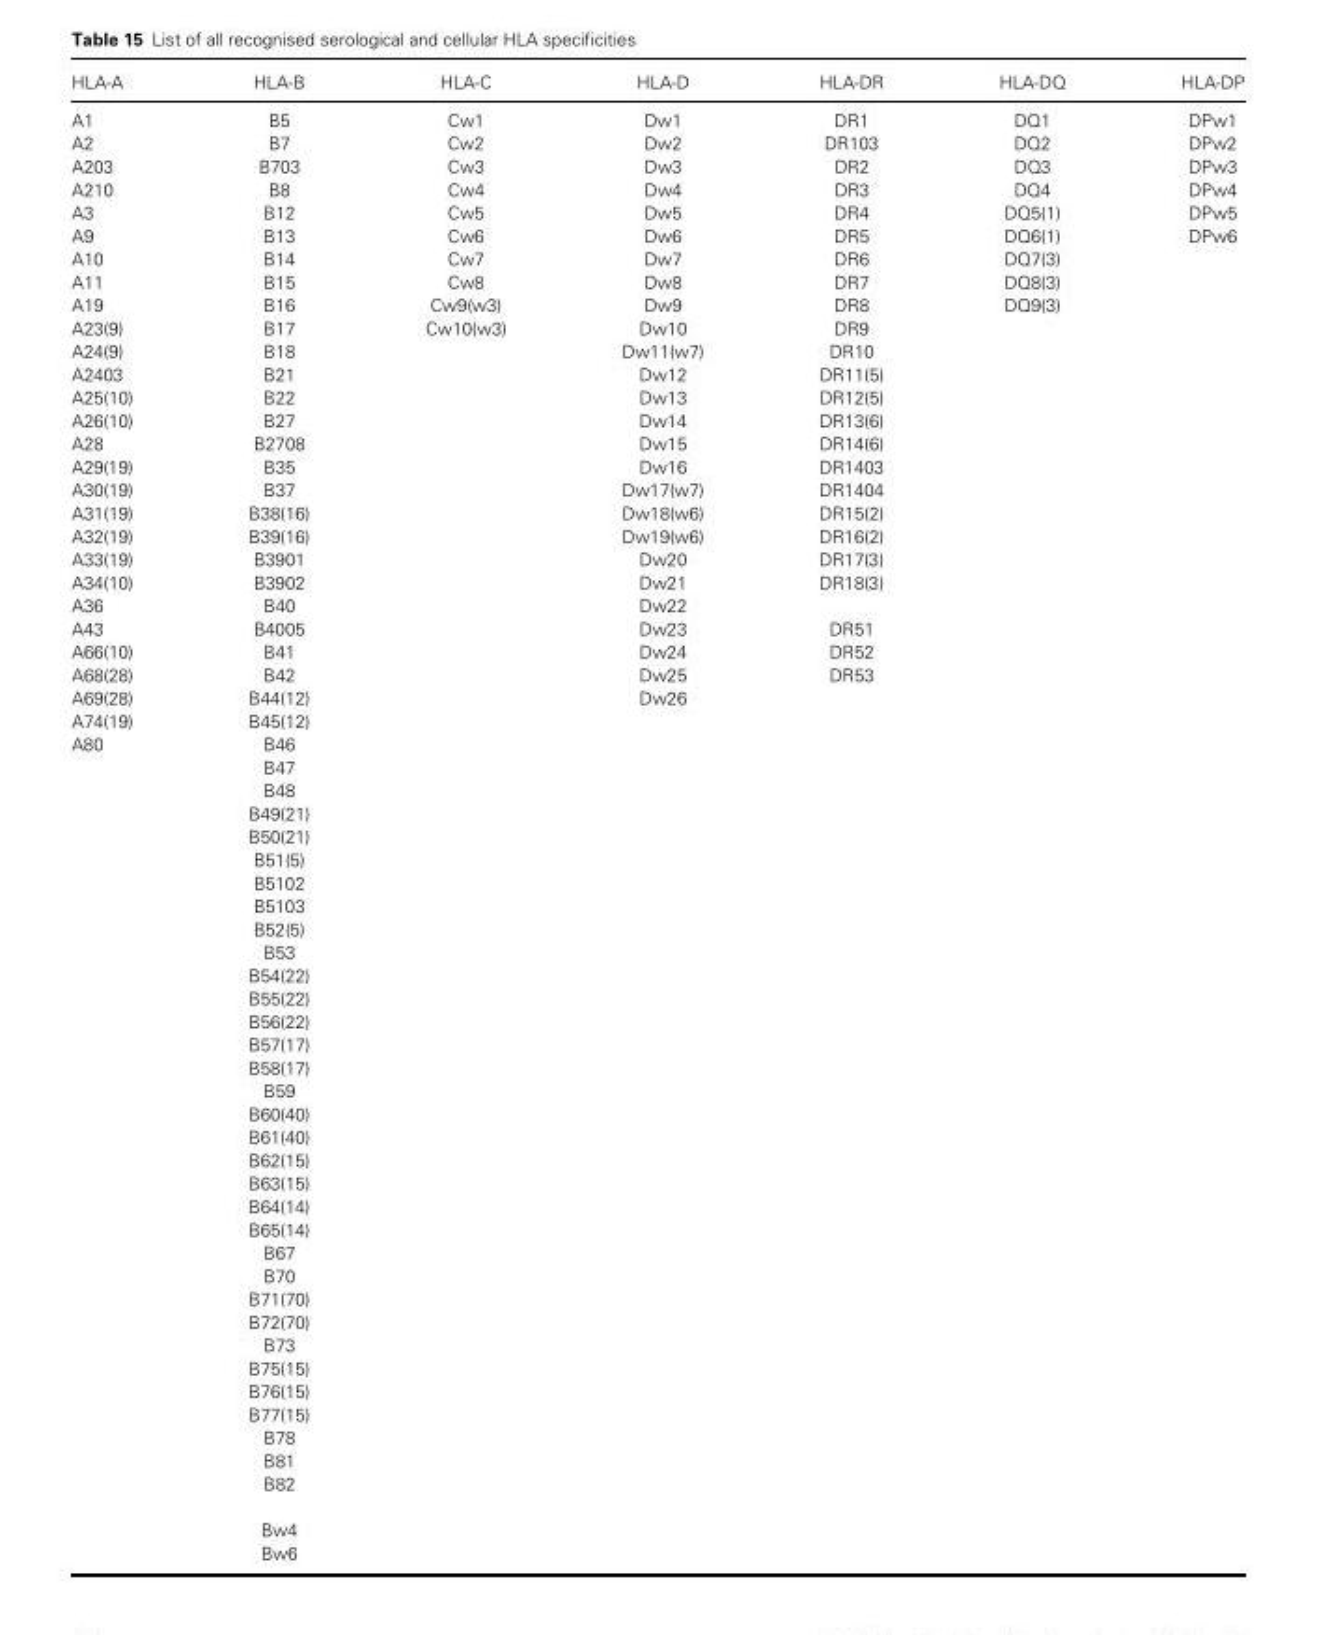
<table><thead><tr><td>HLA-A</td><td>HLA-B</td><td>HLA-C</td><td>HLA-D</td><td>HLA-DR</td><td>HLA-DQ</td><td>HLA-DP</td></tr></thead><tbody><tr><td>A1</td><td>B5</td><td>Cw1</td><td>Dw1</td><td>DR1</td><td>DQ1</td><td>DPw1</td></tr><tr><td>A2</td><td>B7</td><td>Cw2</td><td>Dw2</td><td>DR103</td><td>DQ2</td><td>DPw2</td></tr><tr><td>A203</td><td>B703</td><td>Cw3</td><td>Dw3</td><td>DR2</td><td>DQ3</td><td>DPw3</td></tr><tr><td>A210</td><td>B8</td><td>Cw4</td><td>Dw4</td><td>DR3</td><td>DQ4</td><td>DPw4</td></tr><tr><td>A3</td><td>B12</td><td>Cw5</td><td>Dw5</td><td>DR4</td><td>DQ5(1)</td><td>DPw5</td></tr><tr><td>A9</td><td>B13</td><td>Cw6</td><td>Dw6</td><td>DR5</td><td>DQ6(1)</td><td>DPw6</td></tr><tr><td>A10</td><td>B14</td><td>Cw7</td><td>Dw7</td><td>DR6</td><td>DQ7(3)</td><td></td></tr><tr><td>A11</td><td>B15</td><td>Cw8</td><td>Dw8</td><td>DR7</td><td>DQ8(3)</td><td></td></tr><tr><td>A19</td><td>B16</td><td>Cw9(w3)</td><td>Dw9</td><td>DR8</td><td>DQ9(3)</td><td></td></tr><tr><td>A23(9)</td><td>B17</td><td>Cw10(w3)</td><td>Dw10</td><td>DR9</td><td></td><td></td></tr><tr><td>A24(9)</td><td>B18</td><td></td><td>Dw11(w7)</td><td>DR10</td><td></td><td></td></tr><tr><td>A2403</td><td>B21</td><td></td><td>Dw12</td><td>DR11(5)</td><td></td><td></td></tr><tr><td>A25(10)</td><td>B22</td><td></td><td>Dw13</td><td>DR12(5)</td><td></td><td></td></tr><tr><td>A26(10)</td><td>B27</td><td></td><td>Dw14</td><td>DR13(6)</td><td></td><td></td></tr><tr><td>A28</td><td>B2708</td><td></td><td>Dw15</td><td>DR14(6)</td><td></td><td></td></tr><tr><td>A29(19)</td><td>B35</td><td></td><td>Dw16</td><td>DR1403</td><td></td><td></td></tr><tr><td>A30(19)</td><td>B37</td><td></td><td>Dw17(w7)</td><td>DR1404</td><td></td><td></td></tr><tr><td>A31(19)</td><td>B38(16)</td><td></td><td>Dw18(w6)</td><td>DR15(2)</td><td></td><td></td></tr><tr><td>A32(19)</td><td>B39(16)</td><td></td><td>Dw19(w6)</td><td>DR16(2)</td><td></td><td></td></tr><tr><td>A33(19)</td><td>B3901</td><td></td><td>Dw20</td><td>DR17(3)</td><td></td><td></td></tr><tr><td>A34(10)</td><td>B3902</td><td></td><td>Dw21</td><td>DR18(3)</td><td></td><td></td></tr><tr><td>A36</td><td>B40</td><td></td><td>Dw22</td><td></td><td></td><td></td></tr><tr><td>A43</td><td>B4005</td><td></td><td>Dw23</td><td>DR51</td><td></td><td></td></tr><tr><td>A66(10)</td><td>B41</td><td></td><td>Dw24</td><td>DR52</td><td></td><td></td></tr><tr><td>A68(28)</td><td>B42</td><td></td><td>Dw25</td><td>DR53</td><td></td><td></td></tr><tr><td>A69(28)</td><td>B44(12)</td><td></td><td>Dw26</td><td></td><td></td><td></td></tr><tr><td>A74(19)</td><td>B45(12)</td><td></td><td></td><td></td><td></td><td></td></tr><tr><td rowspan="35">A80</td><td>B46</td><td></td><td></td><td></td><td></td><td></td></tr><tr><td>B47</td><td></td><td></td><td></td><td></td><td></td></tr><tr><td>B48</td><td></td><td></td><td></td><td></td><td></td></tr><tr><td>B49(21)</td><td></td><td></td><td></td><td></td><td></td></tr><tr><td>B50(21)</td><td></td><td></td><td></td><td></td><td></td></tr><tr><td>B51(5)</td><td></td><td></td><td></td><td></td><td></td></tr><tr><td>B5102</td><td></td><td></td><td></td><td></td><td></td></tr><tr><td>B5103</td><td></td><td></td><td></td><td></td><td></td></tr><tr><td>B52(5)</td><td></td><td></td><td></td><td></td><td></td></tr><tr><td>B53</td><td></td><td></td><td></td><td></td><td></td></tr><tr><td>B54(22)</td><td></td><td></td><td></td><td></td><td></td></tr><tr><td>B55(22)</td><td></td><td></td><td></td><td></td><td></td></tr><tr><td>B56(22)</td><td></td><td></td><td></td><td></td><td></td></tr><tr><td>B57(17)</td><td></td><td></td><td></td><td></td><td></td></tr><tr><td>B58(17)</td><td></td><td></td><td></td><td></td><td></td></tr><tr><td>B59</td><td></td><td></td><td></td><td></td><td></td></tr><tr><td>B60(40)</td><td></td><td></td><td></td><td></td><td></td></tr><tr><td>B61(40)</td><td></td><td></td><td></td><td></td><td></td></tr><tr><td>B62(15)</td><td></td><td></td><td></td><td></td><td></td></tr><tr><td>B63(15)</td><td></td><td></td><td></td><td></td><td></td></tr><tr><td>B64(14)</td><td></td><td></td><td></td><td></td><td></td></tr><tr><td>B65(14)</td><td></td><td></td><td></td><td></td><td></td></tr><tr><td>B67</td><td></td><td></td><td></td><td></td><td></td></tr><tr><td>B70</td><td></td><td></td><td></td><td></td><td></td></tr><tr><td>B71(70)</td><td></td><td></td><td></td><td></td><td></td></tr><tr><td>B72(70)</td><td></td><td></td><td></td><td></td><td></td></tr><tr><td>B73</td><td></td><td></td><td></td><td></td><td></td></tr><tr><td>B75(15)</td><td></td><td></td><td></td><td></td><td></td></tr><tr><td>B76(15)</td><td></td><td></td><td></td><td></td><td></td></tr><tr><td>B77(15)</td><td></td><td></td><td></td><td></td><td></td></tr><tr><td>B78</td><td></td><td></td><td></td><td></td><td></td></tr><tr><td>B81</td><td></td><td></td><td></td><td></td><td></td></tr><tr><td>B82</td><td></td><td></td><td></td><td></td><td></td></tr><tr><td>Bw4</td><td></td><td></td><td></td><td></td><td></td></tr><tr><td>Bw6</td><td></td><td></td><td></td><td></td><td></td></tr></tbody></table>